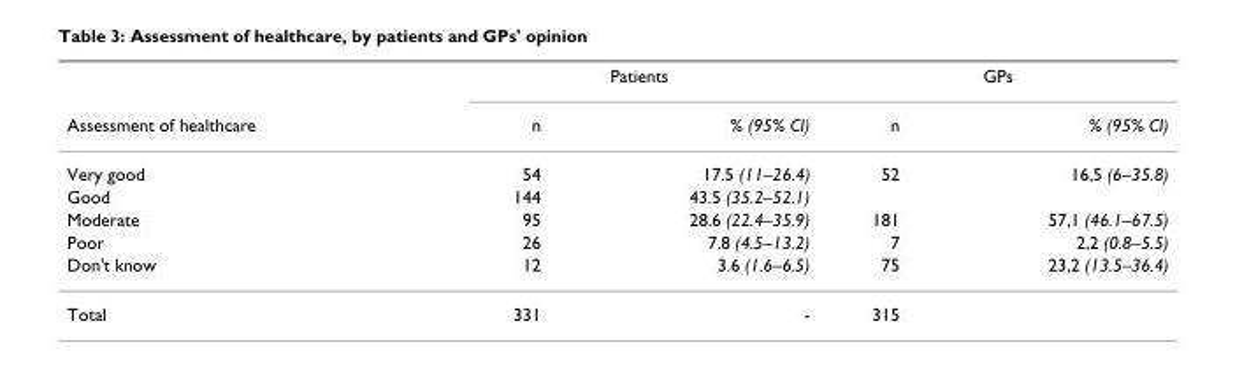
<table><thead><tr><td rowspan="2">Assessment of healthcare</td><td colspan="2">Patients</td><td colspan="2">GPs</td></tr><tr><td>n</td><td>% (95% CI)</td><td>n</td><td>% (95% CI)</td></tr></thead><tbody><tr><td>Very good</td><td>54</td><td>17.5 (11–26.4)</td><td>52</td><td>16,5 (6–35.8)</td></tr><tr><td>Good</td><td>144</td><td>43.5 (35.2–52.1)</td><td></td><td></td></tr><tr><td>Moderate</td><td>95</td><td>28.6 (22.4–35.9)</td><td>181</td><td>57,1 (46.1–67.5)</td></tr><tr><td>Poor</td><td>26</td><td>7.8 (4.5–13.2)</td><td>7</td><td>2,2 (0.8–5.5)</td></tr><tr><td>Don&#x27;t know</td><td>12</td><td>3.6 (1.6–6.5)</td><td>75</td><td>23,2 (13.5–36.4)</td></tr><tr><td>Total</td><td>331</td><td>-</td><td>315</td><td></td></tr></tbody></table>